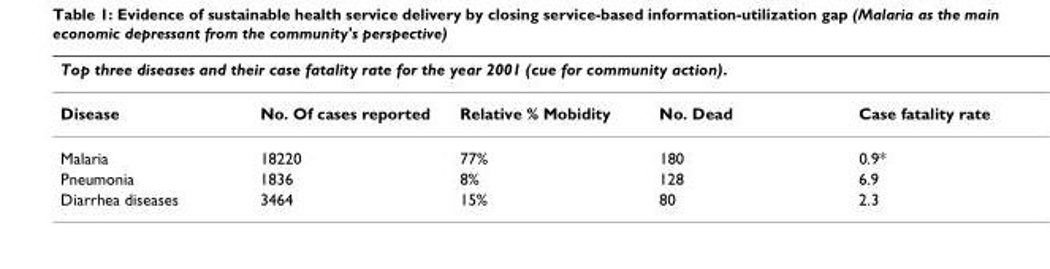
<table><thead><tr><td colspan="5">Top three diseases and their case fatality rate for the year 2001 (cue for community action).</td></tr><tr><td>Disease</td><td>No. Of cases reported</td><td>Relative % Mobidity</td><td>No. Dead</td><td>Case fatality rate</td></tr></thead><tbody><tr><td>Malaria</td><td>18220</td><td>77%</td><td>180</td><td>0.9*</td></tr><tr><td>Pneumonia</td><td>1836</td><td>8%</td><td>128</td><td>6.9</td></tr><tr><td>Diarrhea diseases</td><td>3464</td><td>15%</td><td>80</td><td>2.3</td></tr></tbody></table>